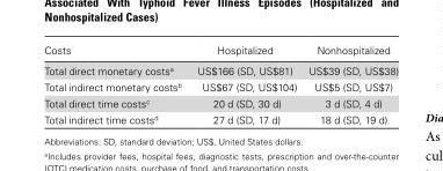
<table><thead><tr><td>Costs</td><td>Hospitalized</td><td>Nonhospitalized</td></tr></thead><tbody><tr><td>Total direct monetary costs<sup>a</sup></td><td>US$166 (SD, US$81)</td><td>US$39 (SD, US$38)</td></tr><tr><td>Total indirect monetary costs<sup>b</sup></td><td>US$67 (SD, US$104)</td><td>US$5 (SD, US$7)</td></tr><tr><td>Total direct time costs<sup>c</sup></td><td>20 d (SD, 30 d)</td><td>3 d (SD, 4 d)</td></tr><tr><td>Total indirect time costs<sup>d</sup></td><td>27 d (SD, 17 d)</td><td>18 d (SD, 19 d)</td></tr></tbody></table>